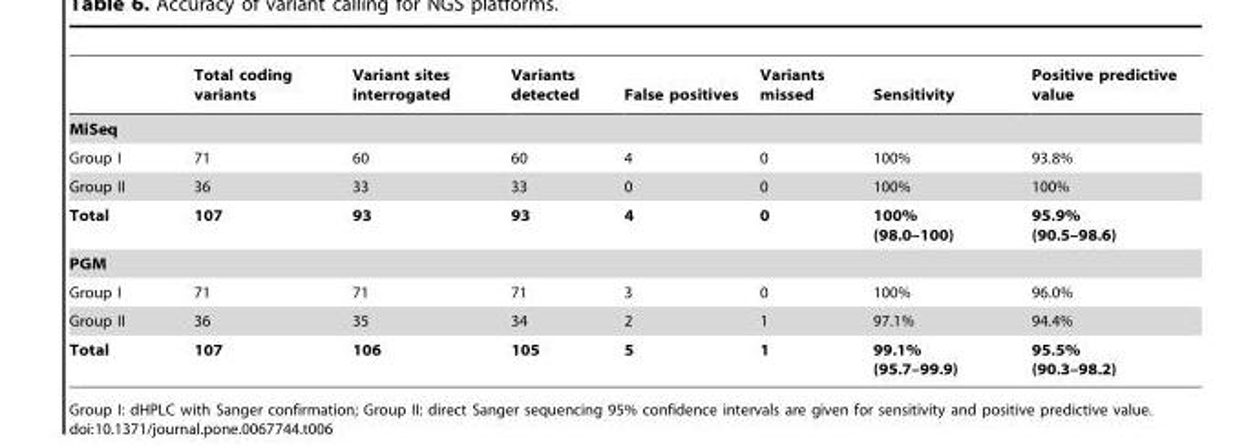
<table><thead><tr><td></td><td>Total coding variants</td><td>Variant sites interrogated</td><td>Variants detected</td><td>False positives</td><td>Variants missed</td><td>Sensitivity</td><td>Positive predictive value</td></tr></thead><tbody><tr><td colspan="8">MiSeq</td></tr><tr><td>Group I</td><td>71</td><td>60</td><td>60</td><td>4</td><td>0</td><td>100%</td><td>93.8%</td></tr><tr><td>Group II</td><td>36</td><td>33</td><td>33</td><td>0</td><td>0</td><td>100%</td><td>100%</td></tr><tr><td>Total</td><td>107</td><td>93</td><td>93</td><td>4</td><td>0</td><td>100% (98.0–100)</td><td>95.9% (90.5–98.6)</td></tr><tr><td colspan="8">PGM</td></tr><tr><td>Group I</td><td>71</td><td>71</td><td>71</td><td>3</td><td>0</td><td>100%</td><td>96.0%</td></tr><tr><td>Group II</td><td>36</td><td>35</td><td>34</td><td>2</td><td>1</td><td>97.1%</td><td>94.4%</td></tr><tr><td>Total</td><td>107</td><td>106</td><td>105</td><td>5</td><td>1</td><td>99.1% (95.7–99.9)</td><td>95.5% (90.3–98.2)</td></tr></tbody></table>